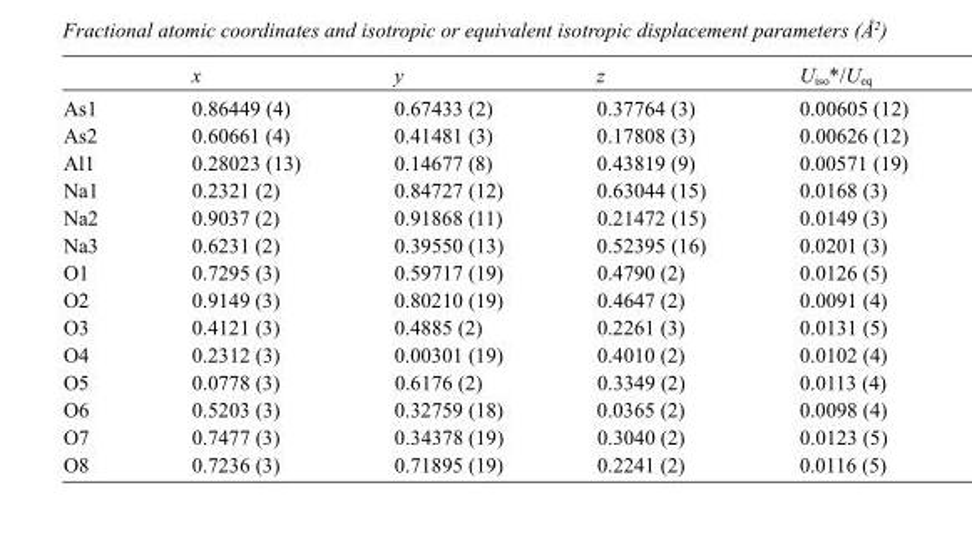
<table><thead><tr><td></td><td>x</td><td>y</td><td>z</td><td>U<sub>iso</sub>*/U<sub>eq</sub></td></tr></thead><tbody><tr><td>As1</td><td>0.86449 (4)</td><td>0.67433 (2)</td><td>0.37764 (3)</td><td>0.00605 (12)</td></tr><tr><td>As2</td><td>0.60661 (4)</td><td>0.41481 (3)</td><td>0.17808 (3)</td><td>0.00626 (12)</td></tr><tr><td>Al1</td><td>0.28023 (13)</td><td>0.14677 (8)</td><td>0.43819 (9)</td><td>0.00571 (19)</td></tr><tr><td>Na1</td><td>0.2321 (2)</td><td>0.84727 (12)</td><td>0.63044 (15)</td><td>0.0168 (3)</td></tr><tr><td>Na2</td><td>0.9037 (2)</td><td>0.91868 (11)</td><td>0.21472 (15)</td><td>0.0149 (3)</td></tr><tr><td>Na3</td><td>0.6231 (2)</td><td>0.39550 (13)</td><td>0.52395 (16)</td><td>0.0201 (3)</td></tr><tr><td>O1</td><td>0.7295 (3)</td><td>0.59717 (19)</td><td>0.4790 (2)</td><td>0.0126 (5)</td></tr><tr><td>O2</td><td>0.9149 (3)</td><td>0.80210 (19)</td><td>0.4647 (2)</td><td>0.0091 (4)</td></tr><tr><td>O3</td><td>0.4121 (3)</td><td>0.4885 (2)</td><td>0.2261 (3)</td><td>0.0131 (5)</td></tr><tr><td>O4</td><td>0.2312 (3)</td><td>0.00301 (19)</td><td>0.4010 (2)</td><td>0.0102 (4)</td></tr><tr><td>O5</td><td>0.0778 (3)</td><td>0.6176 (2)</td><td>0.3349 (2)</td><td>0.0113 (4)</td></tr><tr><td>O6</td><td>0.5203 (3)</td><td>0.32759 (18)</td><td>0.0365 (2)</td><td>0.0098 (4)</td></tr><tr><td>O7</td><td>0.7477 (3)</td><td>0.34378 (19)</td><td>0.3040 (2)</td><td>0.0123 (5)</td></tr><tr><td>O8</td><td>0.7236 (3)</td><td>0.71895 (19)</td><td>0.2241 (2)</td><td>0.0116 (5)</td></tr></tbody></table>